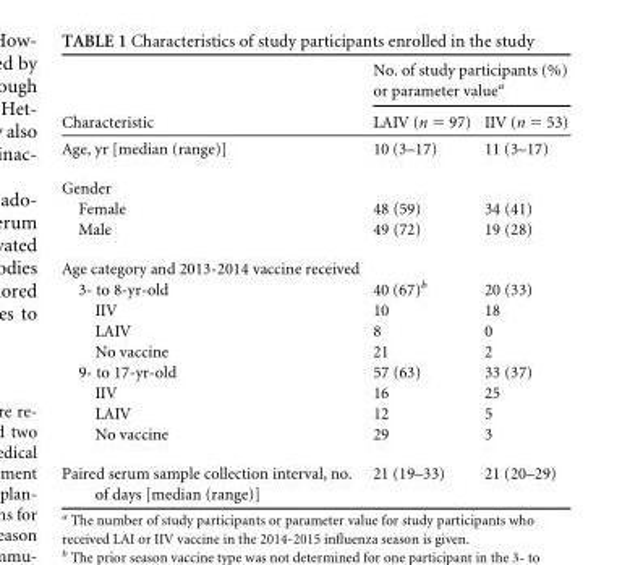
<table><thead><tr><td rowspan="2">Characteristic</td><td colspan="2">No. of study participants (%) or parameter value<sup>a</sup></td></tr><tr><td>LAIV (n = 97)</td><td>IIV (n = 53)</td></tr></thead><tbody><tr><td>Age, yr [median (range)]</td><td>10 (3–17)</td><td>11 (3–17)</td></tr><tr><td colspan="3">Gender</td></tr><tr><td>Female</td><td>48 (59)</td><td>34 (41)</td></tr><tr><td>Male</td><td>49 (72)</td><td>19 (28)</td></tr><tr><td colspan="3">Age category and 2013-2014 vaccine received</td></tr><tr><td>3- to 8-yr-old</td><td>40 (67)<sup>b</sup></td><td>20 (33)</td></tr><tr><td>IIV</td><td>10</td><td>18</td></tr><tr><td>LAIV</td><td>8</td><td>0</td></tr><tr><td>No vaccine</td><td>21</td><td>2</td></tr><tr><td>9- to 17-yr-old</td><td>57 (63)</td><td>33 (37)</td></tr><tr><td>IIV</td><td>16</td><td>25</td></tr><tr><td>LAIV</td><td>12</td><td>5</td></tr><tr><td>No vaccine</td><td>29</td><td>3</td></tr><tr><td>Paired serum sample collection interval, no. of days [median (range)]</td><td>21 (19–33)</td><td>21 (20–29)</td></tr></tbody></table>